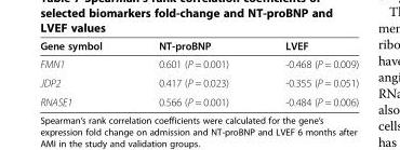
<table><thead><tr><td>Gene symbol</td><td>NT-proBNP</td><td>LVEF</td></tr></thead><tbody><tr><td>FMN1</td><td>0.601 (P = 0.001)</td><td>-0.468 (P = 0.009)</td></tr><tr><td>JDP2</td><td>0.417 (P = 0.023)</td><td>-0.355 (P = 0.051)</td></tr><tr><td>RNASE1</td><td>0.566 (P = 0.001)</td><td>-0.484 (P = 0.006)</td></tr></tbody></table>